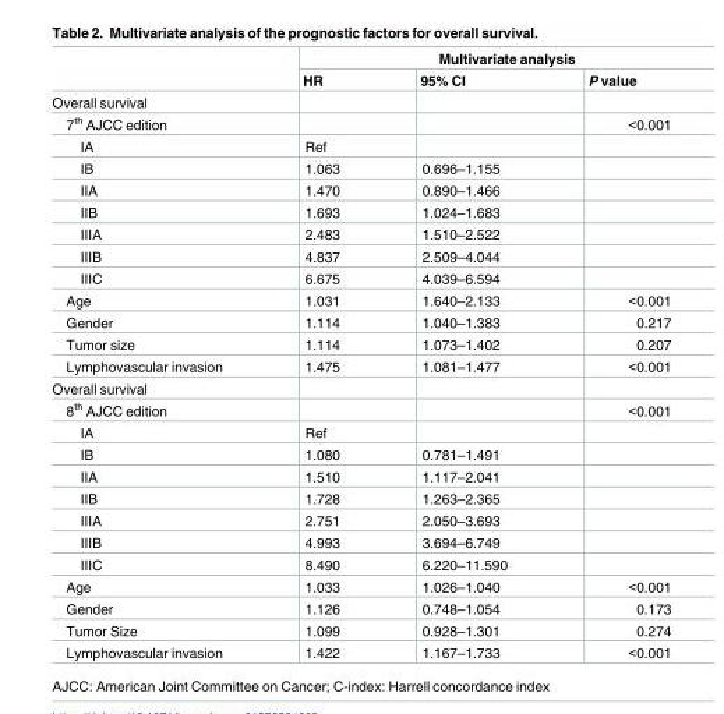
<table><thead><tr><td rowspan="2"></td><td colspan="3">Multivariate analysis</td></tr><tr><td>HR</td><td>95% CI</td><td>P value</td></tr></thead><tbody><tr><td colspan="4">Overall survival</td></tr><tr><td>7<sup>th</sup> AJCC edition</td><td></td><td></td><td>&lt;0.001</td></tr><tr><td>IA</td><td>Ref</td><td></td><td></td></tr><tr><td>IB</td><td>1.063</td><td>0.696–1.155</td><td></td></tr><tr><td>IIA</td><td>1.470</td><td>0.890–1.466</td><td></td></tr><tr><td>IIB</td><td>1.693</td><td>1.024–1.683</td><td></td></tr><tr><td>IIIA</td><td>2.483</td><td>1.510–2.522</td><td></td></tr><tr><td>IIIB</td><td>4.837</td><td>2.509–4.044</td><td></td></tr><tr><td>IIIC</td><td>6.675</td><td>4.039–6.594</td><td></td></tr><tr><td>Age</td><td>1.031</td><td>1.640–2.133</td><td>&lt;0.001</td></tr><tr><td>Gender</td><td>1.114</td><td>1.040–1.383</td><td>0.217</td></tr><tr><td>Tumor size</td><td>1.114</td><td>1.073–1.402</td><td>0.207</td></tr><tr><td>Lymphovascular invasion</td><td>1.475</td><td>1.081–1.477</td><td>&lt;0.001</td></tr><tr><td colspan="4">Overall survival</td></tr><tr><td>8<sup>th</sup> AJCC edition</td><td></td><td></td><td>&lt;0.001</td></tr><tr><td>IA</td><td>Ref</td><td></td><td></td></tr><tr><td>IB</td><td>1.080</td><td>0.781–1.491</td><td></td></tr><tr><td>IIA</td><td>1.510</td><td>1.117–2.041</td><td></td></tr><tr><td>IIB</td><td>1.728</td><td>1.263–2.365</td><td></td></tr><tr><td>IIIA</td><td>2.751</td><td>2.050–3.693</td><td></td></tr><tr><td>IIIB</td><td>4.993</td><td>3.694–6.749</td><td></td></tr><tr><td>IIIC</td><td>8.490</td><td>6.220–11.590</td><td></td></tr><tr><td>Age</td><td>1.033</td><td>1.026–1.040</td><td>&lt;0.001</td></tr><tr><td>Gender</td><td>1.126</td><td>0.748–1.054</td><td>0.173</td></tr><tr><td>Tumor Size</td><td>1.099</td><td>0.928–1.301</td><td>0.274</td></tr><tr><td>Lymphovascular invasion</td><td>1.422</td><td>1.167–1.733</td><td>&lt;0.001</td></tr></tbody></table>